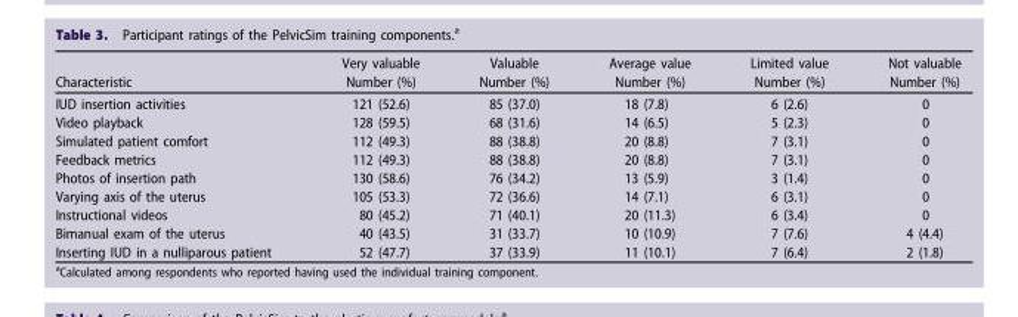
<table><thead><tr><td>Characteristic</td><td>Very valuable Number (%)</td><td>Valuable Number (%)</td><td>Average value Number (%)</td><td>Limited value Number (%)</td><td>Not valuable Number (%)</td></tr></thead><tbody><tr><td>IUD insertion activities</td><td>121 (52.6)</td><td>85 (37.0)</td><td>18 (7.8)</td><td>6 (2.6)</td><td>0</td></tr><tr><td>Video playback</td><td>128 (59.5)</td><td>68 (31.6)</td><td>14 (6.5)</td><td>5 (2.3)</td><td>0</td></tr><tr><td>Simulated patient comfort</td><td>112 (49.3)</td><td>88 (38.8)</td><td>20 (8.8)</td><td>7 (3.1)</td><td>0</td></tr><tr><td>Feedback metrics</td><td>112 (49.3)</td><td>88 (38.8)</td><td>20 (8.8)</td><td>7 (3.1)</td><td>0</td></tr><tr><td>Photos of insertion path</td><td>130 (58.6)</td><td>76 (34.2)</td><td>13 (5.9)</td><td>3 (1.4)</td><td>0</td></tr><tr><td>Varying axis of the uterus</td><td>105 (53.3)</td><td>72 (36.6)</td><td>14 (7.1)</td><td>6 (3.1)</td><td>0</td></tr><tr><td>Instructional videos</td><td>80 (45.2)</td><td>71 (40.1)</td><td>20 (11.3)</td><td>6 (3.4)</td><td>0</td></tr><tr><td>Bimanual exam of the uterus</td><td>40 (43.5)</td><td>31 (33.7)</td><td>10 (10.9)</td><td>7 (7.6)</td><td>4 (4.4)</td></tr><tr><td>Inserting IUD in a nulliparous patient</td><td>52 (47.7)</td><td>37 (33.9)</td><td>11 (10.1)</td><td>7 (6.4)</td><td>2 (1.8)</td></tr></tbody></table>